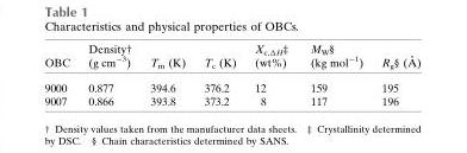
<table><thead><tr><td>OBC</td><td>Density† (g cm<sup>−3</sup>)</td><td>T<sub>m</sub> (K)</td><td>T<sub>c</sub> (K)</td><td>X<sub>c,ΔH</sub>‡ (wt%)</td><td>M<sub>W</sub>§ (kg mol<sup>−1</sup>)</td><td>Rg§ (A˚ )</td></tr></thead><tbody><tr><td>9000</td><td>0.877</td><td>394.6</td><td>376.2</td><td>12</td><td>159</td><td>195</td></tr><tr><td>9007</td><td>0.866</td><td>393.8</td><td>373.2</td><td>8</td><td>117</td><td>196</td></tr></tbody></table>